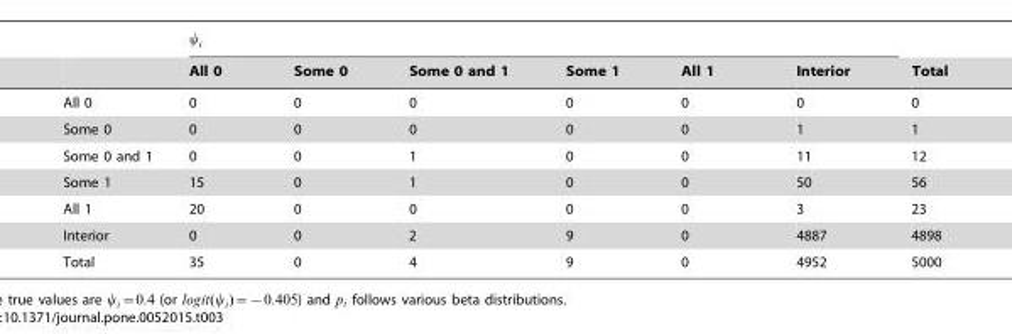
<table><thead><tr><td></td><td>All 0</td><td>Some 0</td><td>Some 0 and 1</td><td>Some 1</td><td>All 1</td><td>Interior</td><td>Total</td></tr></thead><tbody><tr><td>All 0</td><td>0</td><td>0</td><td>0</td><td>0</td><td>0</td><td>0</td><td>0</td></tr><tr><td>Some 0</td><td>0</td><td>0</td><td>0</td><td>0</td><td>0</td><td>1</td><td>1</td></tr><tr><td>Some 0 and 1</td><td>0</td><td>0</td><td>1</td><td>0</td><td>0</td><td>11</td><td>12</td></tr><tr><td>Some 1</td><td>15</td><td>0</td><td>1</td><td>0</td><td>0</td><td>50</td><td>56</td></tr><tr><td>All 1</td><td>20</td><td>0</td><td>0</td><td>0</td><td>0</td><td>3</td><td>23</td></tr><tr><td>Interior</td><td>0</td><td>0</td><td>2</td><td>9</td><td>0</td><td>4887</td><td>4898</td></tr><tr><td>Total</td><td>35</td><td>0</td><td>4</td><td>9</td><td>0</td><td>4952</td><td>5000</td></tr></tbody></table>